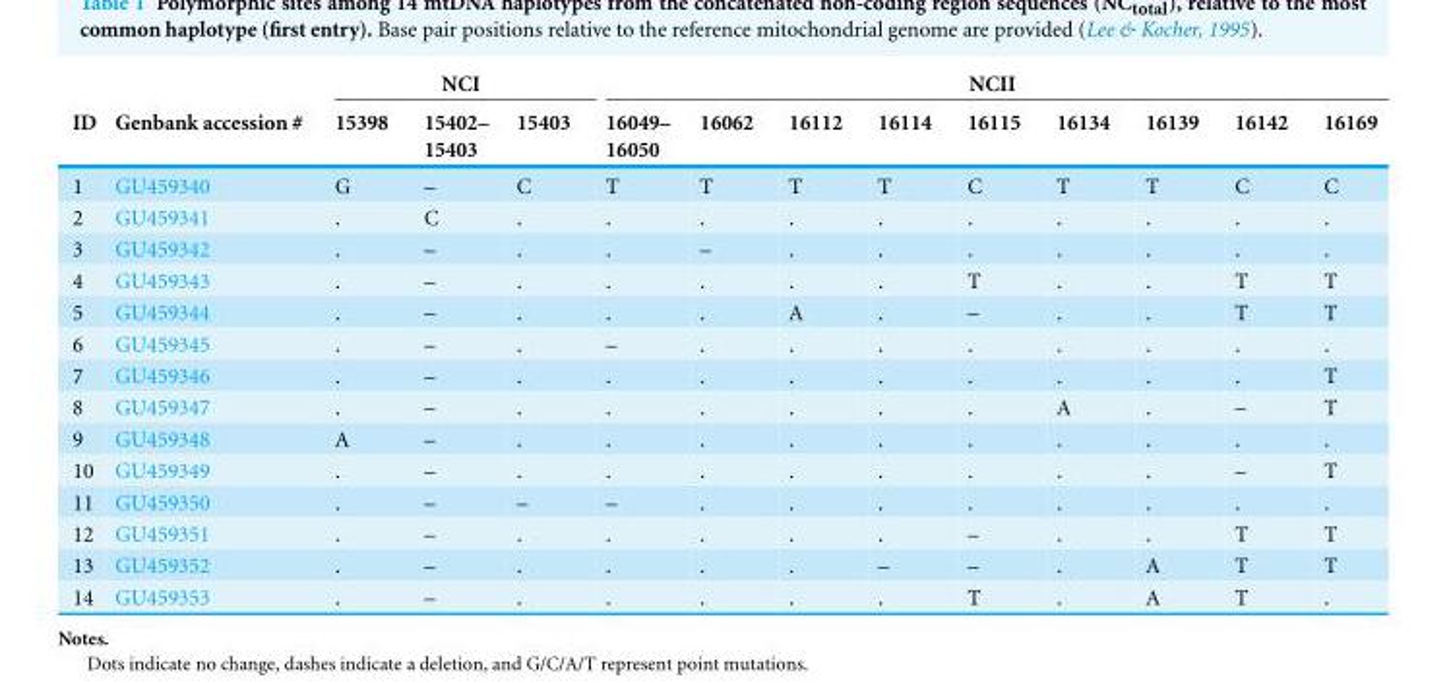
<table><thead><tr><td rowspan="2">ID</td><td rowspan="2">Genbank accession #</td><td colspan="3">NCI</td><td colspan="9">NCII</td></tr><tr><td>15398</td><td>15402– 15403</td><td>15403</td><td>16049– 16050</td><td>16062</td><td>16112</td><td>16114</td><td>16115</td><td>16134</td><td>16139</td><td>16142</td><td>16169</td></tr></thead><tbody><tr><td>1</td><td>GU459340</td><td>G</td><td>–</td><td>C</td><td>T</td><td>T</td><td>T</td><td>T</td><td>C</td><td>T</td><td>T</td><td>C</td><td>C</td></tr><tr><td>2</td><td>GU459341</td><td>.</td><td>C</td><td>.</td><td>.</td><td>.</td><td>.</td><td>.</td><td>.</td><td>.</td><td>.</td><td>.</td><td>.</td></tr><tr><td>3</td><td>GU459342</td><td>.</td><td>–</td><td>.</td><td>.</td><td>–</td><td>.</td><td>.</td><td>.</td><td>.</td><td>.</td><td>.</td><td>.</td></tr><tr><td>4</td><td>GU459343</td><td>.</td><td>–</td><td>.</td><td>.</td><td>.</td><td>.</td><td>.</td><td>T</td><td>.</td><td>.</td><td>T</td><td>T</td></tr><tr><td>5</td><td>GU459344</td><td>.</td><td>–</td><td>.</td><td>.</td><td>.</td><td>A</td><td>.</td><td>–</td><td>.</td><td>.</td><td>T</td><td>T</td></tr><tr><td>6</td><td>GU459345</td><td>.</td><td>–</td><td>.</td><td>–</td><td>.</td><td>.</td><td>.</td><td>.</td><td>.</td><td>.</td><td>.</td><td>.</td></tr><tr><td>7</td><td>GU459346</td><td>.</td><td>–</td><td>.</td><td>.</td><td>.</td><td>.</td><td>.</td><td>.</td><td>.</td><td>.</td><td>.</td><td>T</td></tr><tr><td>8</td><td>GU459347</td><td>.</td><td>–</td><td>.</td><td>.</td><td>.</td><td>.</td><td>.</td><td>.</td><td>A</td><td>.</td><td>–</td><td>T</td></tr><tr><td>9</td><td>GU459348</td><td>A</td><td>–</td><td>.</td><td>.</td><td>.</td><td>.</td><td>.</td><td>.</td><td>.</td><td>.</td><td>.</td><td>.</td></tr><tr><td>10</td><td>GU459349</td><td>.</td><td>–</td><td>.</td><td>.</td><td>.</td><td>.</td><td>.</td><td>.</td><td>.</td><td>.</td><td>–</td><td>T</td></tr><tr><td>11</td><td>GU459350</td><td>.</td><td>–</td><td>–</td><td>–</td><td>.</td><td>.</td><td>.</td><td>.</td><td>.</td><td>.</td><td>.</td><td>.</td></tr><tr><td>12</td><td>GU459351</td><td>.</td><td>–</td><td>.</td><td>.</td><td>.</td><td>.</td><td>.</td><td>–</td><td>.</td><td>.</td><td>T</td><td>T</td></tr><tr><td>13</td><td>GU459352</td><td>.</td><td>–</td><td>.</td><td>.</td><td>.</td><td>.</td><td>–</td><td>–</td><td>.</td><td>A</td><td>T</td><td>T</td></tr><tr><td>14</td><td>GU459353</td><td>.</td><td>–</td><td>.</td><td>.</td><td>.</td><td>.</td><td>.</td><td>T</td><td>.</td><td>A</td><td>T</td><td>.</td></tr></tbody></table>